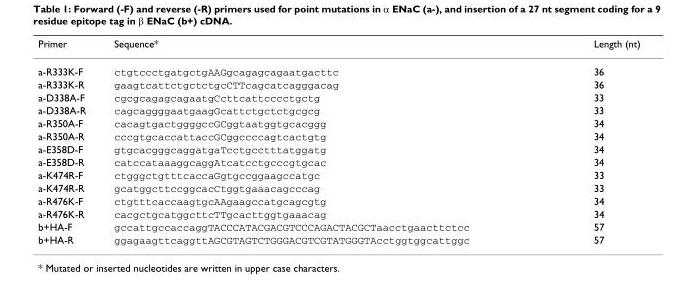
<table><thead><tr><td>Primer</td><td>Sequence*</td><td>Length (nt)</td></tr></thead><tbody><tr><td>a-R333K-F</td><td>ctgtccctgatgctgAAGgcagagcagaatgacttc</td><td>36</td></tr><tr><td>a-R333K-R</td><td>gaagtcattctgctctgcCTTcagcatcagggacag</td><td>36</td></tr><tr><td>a-D338A-F</td><td>cgcgcagagcagaatgCcttcattcccctgctg</td><td>33</td></tr><tr><td>a-D338A-R</td><td>cagcaggggaatgaagGcattctgctctgcgcg</td><td>33</td></tr><tr><td>a-R350A-F</td><td>cacagtgactggggccGCggtaatggtgcacggg</td><td>34</td></tr><tr><td>a-R350A-R</td><td>cccgtgcaccattaccGCggccccagtcactgtg</td><td>34</td></tr><tr><td>a-E358D-F</td><td>gtgcacgggcaggatgaTcctgcctttatggatg</td><td>34</td></tr><tr><td>a-E358D-R</td><td>catccataaaggcaggAtcatcctgcccgtgcac</td><td>34</td></tr><tr><td>a-K474R-F</td><td>ctgggctgtttcaccaGgtgccggaagccatgc</td><td>33</td></tr><tr><td>a-K474R-R</td><td>gcatggcttccggcacCtggtgaaacagcccag</td><td>33</td></tr><tr><td>a-R476K-F</td><td>ctgtttcaccaagtgcAAgaagccatgcagcgtg</td><td>34</td></tr><tr><td>a-R476K-R</td><td>cacgctgcatggcttcTTgcacttggtgaaacag</td><td>34</td></tr><tr><td>b+HA-F</td><td>gccattgccaccaggTACCCATACGACGTCCCAGACTACGCTaacctgaacttctcc</td><td>57</td></tr><tr><td>b+HA-R</td><td>ggagaagttcaggttAGCGTAGTCTGGGACGTCGTATGGGTAcctggtggcattggc</td><td>57</td></tr></tbody></table>